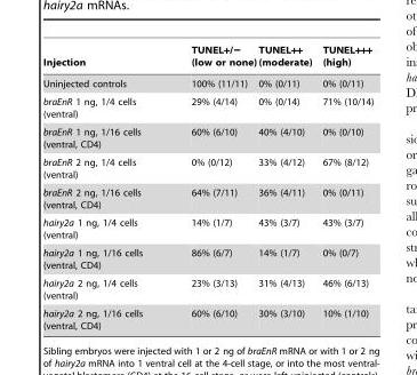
<table><thead><tr><td>Injection</td><td>TUNEL+/− (low or none)</td><td>TUNEL++ (moderate)</td><td>TUNEL+++ (high)</td></tr></thead><tbody><tr><td>Uninjected controls</td><td>100% (11/11)</td><td>0% (0/11)</td><td>0% (0/11)</td></tr><tr><td>braEnR 1 ng, 1/4 cells (ventral)</td><td>29% (4/14)</td><td>0% (0/14)</td><td>71% (10/14)</td></tr><tr><td>braEnR 1 ng, 1/16 cells (ventral, CD4)</td><td>60% (6/10)</td><td>40% (4/10)</td><td>0% (0/10)</td></tr><tr><td>braEnR 2 ng, 1/4 cells (ventral)</td><td>0% (0/12)</td><td>33% (4/12)</td><td>67% (8/12)</td></tr><tr><td>braEnR 2 ng, 1/16 cells (ventral, CD4)</td><td>64% (7/11)</td><td>36% (4/11)</td><td>0% (0/11)</td></tr><tr><td>hairy2a 1 ng, 1/4 cells (ventral)</td><td>14% (1/7)</td><td>43% (3/7)</td><td>43% (3/7)</td></tr><tr><td>hairy2a 1 ng, 1/16 cells (ventral, CD4)</td><td>86% (6/7)</td><td>14% (1/7)</td><td>0% (0/7)</td></tr><tr><td>hairy2a 2 ng, 1/4 cells (ventral)</td><td>23% (3/13)</td><td>31% (4/13)</td><td>46% (6/13)</td></tr><tr><td>hairy2a 2 ng, 1/16 cells (ventral, CD4)</td><td>60% (6/10)</td><td>30% (3/10)</td><td>10% (1/10)</td></tr></tbody></table>